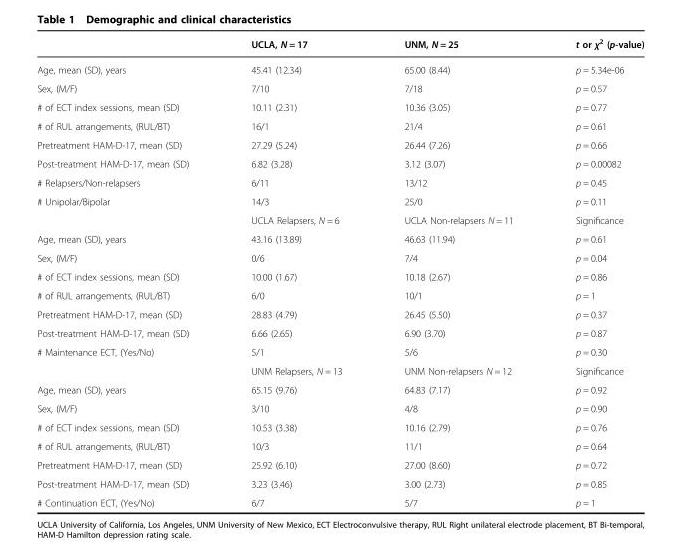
<table><thead><tr><td></td><td>UCLA, N = 17</td><td>UNM, N = 25</td><td>t or χ<sup>2</sup> (p-value)</td></tr></thead><tbody><tr><td>Age, mean (SD), years</td><td>45.41 (12.34)</td><td>65.00 (8.44)</td><td>p = 5.34e-06</td></tr><tr><td>Sex, (M/F)</td><td>7/10</td><td>7/18</td><td>p = 0.57</td></tr><tr><td># of ECT index sessions, mean (SD)</td><td>10.11 (2.31)</td><td>10.36 (3.05)</td><td>p = 0.77</td></tr><tr><td># of RUL arrangements, (RUL/BT)</td><td>16/1</td><td>21/4</td><td>p = 0.61</td></tr><tr><td>Pretreatment HAM-D-17, mean (SD)</td><td>27.29 (5.24)</td><td>26.44 (7.26)</td><td>p = 0.66</td></tr><tr><td>Post-treatment HAM-D-17, mean (SD)</td><td>6.82 (3.28)</td><td>3.12 (3.07)</td><td>p = 0.00082</td></tr><tr><td># Relapsers/Non-relapsers</td><td>6/11</td><td>13/12</td><td>p = 0.45</td></tr><tr><td rowspan="2"># Unipolar/Bipolar</td><td>14/3</td><td>25/0</td><td>p = 0.11</td></tr><tr><td>UCLA Relapsers, N = 6</td><td>UCLA Non-relapsers N = 11</td><td>Significance</td></tr><tr><td>Age, mean (SD), years</td><td>43.16 (13.89)</td><td>46.63 (11.94)</td><td>p = 0.61</td></tr><tr><td>Sex, (M/F)</td><td>0/6</td><td>7/4</td><td>p = 0.04</td></tr><tr><td># of ECT index sessions, mean (SD)</td><td>10.00 (1.67)</td><td>10.18 (2.67)</td><td>p = 0.86</td></tr><tr><td># of RUL arrangements, (RUL/BT)</td><td>6/0</td><td>10/1</td><td>p = 1</td></tr><tr><td>Pretreatment HAM-D-17, mean (SD)</td><td>28.83 (4.79)</td><td>26.45 (5.50)</td><td>p = 0.37</td></tr><tr><td>Post-treatment HAM-D-17, mean (SD)</td><td>6.66 (2.65)</td><td>6.90 (3.70)</td><td>p = 0.87</td></tr><tr><td rowspan="2"># Maintenance ECT, (Yes/No)</td><td>5/1</td><td>5/6</td><td>p = 0.30</td></tr><tr><td>UNM Relapsers, N = 13</td><td>UNM Non-relapsers N = 12</td><td>Significance</td></tr><tr><td>Age, mean (SD), years</td><td>65.15 (9.76)</td><td>64.83 (7.17)</td><td>p = 0.92</td></tr><tr><td>Sex, (M/F)</td><td>3/10</td><td>4/8</td><td>p = 0.90</td></tr><tr><td># of ECT index sessions, mean (SD)</td><td>10.53 (3.38)</td><td>10.16 (2.79)</td><td>p = 0.76</td></tr><tr><td># of RUL arrangements, (RUL/BT)</td><td>10/3</td><td>11/1</td><td>p = 0.64</td></tr><tr><td>Pretreatment HAM-D-17, mean (SD)</td><td>25.92 (6.10)</td><td>27.00 (8.60)</td><td>p = 0.72</td></tr><tr><td>Post-treatment HAM-D-17, mean (SD)</td><td>3.23 (3.46)</td><td>3.00 (2.73)</td><td>p = 0.85</td></tr><tr><td># Continuation ECT, (Yes/No)</td><td>6/7</td><td>5/7</td><td>p = 1</td></tr></tbody></table>